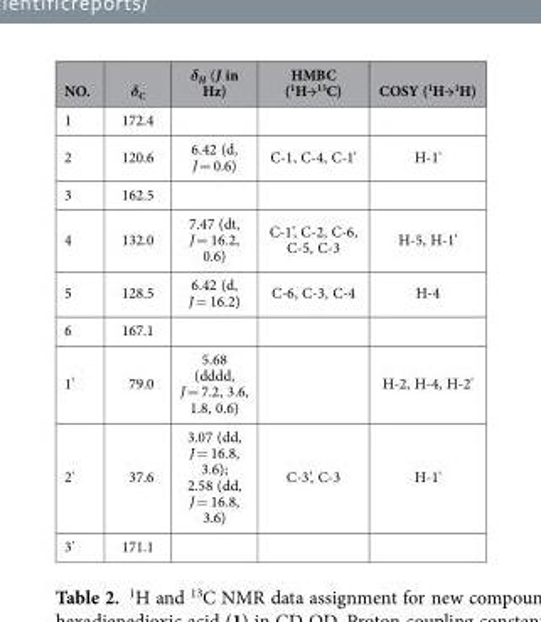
<table><thead><tr><td>NO.</td><td>δ<sub>C</sub></td><td>δ<sub>H</sub> (J in Hz)</td><td>HMBC (<sup>1</sup>H→<sup>13</sup>C)</td><td>COSY (<sup>1</sup>H→<sup>1</sup>H)</td></tr></thead><tbody><tr><td>1</td><td>172.4</td><td></td><td></td><td></td></tr><tr><td>2</td><td>120.6</td><td>6.42 (d, J = 0.6)</td><td>C-1, C-4, C-1&#x27;</td><td>H-1&#x27;</td></tr><tr><td>3</td><td>162.5</td><td></td><td></td><td></td></tr><tr><td>4</td><td>132.0</td><td>7.47 (dt, J = 16.2, 0.6)</td><td>C-1’, C-2, C-6, C-5, C-3</td><td>H-5, H-1&#x27;</td></tr><tr><td>5</td><td>128.5</td><td>6.42 (d, J = 16.2)</td><td>C-6, C-3, C-4</td><td>H-4</td></tr><tr><td>6</td><td>167.1</td><td></td><td></td><td></td></tr><tr><td>1&#x27;</td><td>79.0</td><td>5.68 (dddd, J = 7.2, 3.6, 1.8, 0.6)</td><td></td><td>H-2, H-4, H-2&#x27;</td></tr><tr><td>2&#x27;</td><td>37.6</td><td>3.07 (dd, J = 16.8, 3.6); 2.58 (dd, J = 16.8, 3.6)</td><td>C-3’, C-3</td><td>H-1&#x27;</td></tr><tr><td>3&#x27;</td><td>171.1</td><td></td><td></td><td></td></tr></tbody></table>